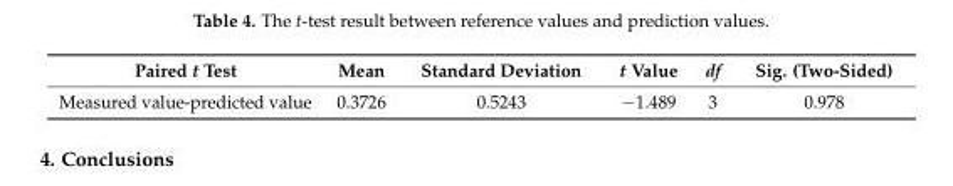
<table><thead><tr><td>Paired t Test</td><td>Mean</td><td>Standard Deviation</td><td>t Value</td><td>df</td><td>Sig. (Two-Sided)</td></tr></thead><tbody><tr><td>Measured value-predicted value</td><td>0.3726</td><td>0.5243</td><td>−1.489</td><td>3</td><td>0.978</td></tr></tbody></table>